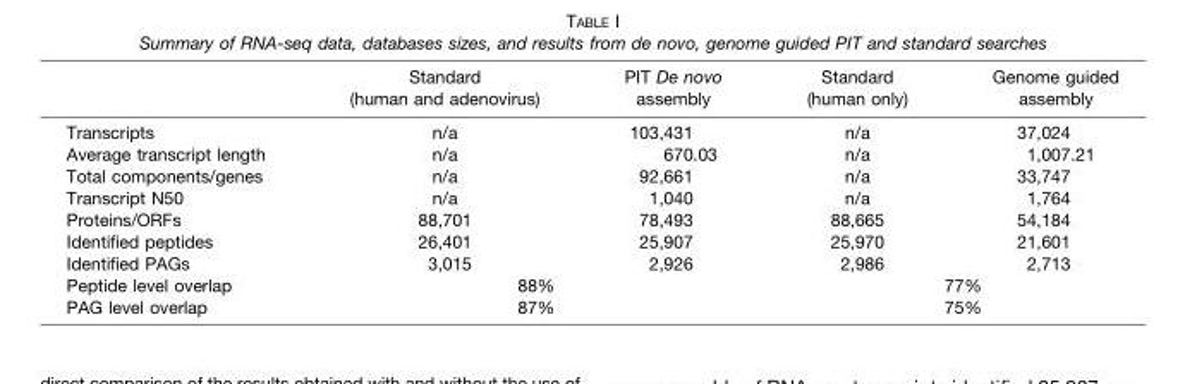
<table><thead><tr><td></td><td>Standard (human and adenovirus)</td><td>PIT De novo assembly</td><td>Standard (human only)</td><td>Genome guided assembly</td></tr></thead><tbody><tr><td>Transcripts</td><td>n/a</td><td>103,431</td><td>n/a</td><td>37,024</td></tr><tr><td>Average transcript length</td><td>n/a</td><td>670.03</td><td>n/a</td><td>1,007.21</td></tr><tr><td>Total components/genes</td><td>n/a</td><td>92,661</td><td>n/a</td><td>33,747</td></tr><tr><td>Transcript N50</td><td>n/a</td><td>1,040</td><td>n/a</td><td>1,764</td></tr><tr><td>Proteins/ORFs</td><td>88,701</td><td>78,493</td><td>88,665</td><td>54,184</td></tr><tr><td>Identified peptides</td><td>26,401</td><td>25,907</td><td>25,970</td><td>21,601</td></tr><tr><td>Identified PAGs</td><td>3,015</td><td>2,926</td><td>2,986</td><td>2,713</td></tr><tr><td>Peptide level overlap</td><td colspan="2">88%</td><td colspan="2">77%</td></tr><tr><td>PAG level overlap</td><td colspan="2">87%</td><td colspan="2">75%</td></tr></tbody></table>